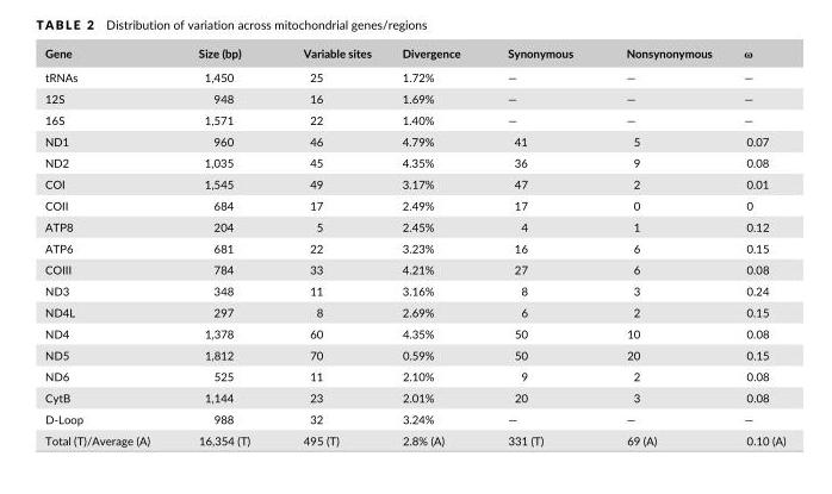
<table><thead><tr><td>Gene</td><td>Size (bp)</td><td>Variable sites</td><td>Divergence</td><td>Synonymous</td><td>Nonsynonymous</td><td>ω</td></tr></thead><tbody><tr><td>tRNAs</td><td>1,450</td><td>25</td><td>1.72%</td><td>—</td><td>—</td><td>—</td></tr><tr><td>12S</td><td>948</td><td>16</td><td>1.69%</td><td>—</td><td>—</td><td>—</td></tr><tr><td>16S</td><td>1,571</td><td>22</td><td>1.40%</td><td>—</td><td>—</td><td>—</td></tr><tr><td>ND1</td><td>960</td><td>46</td><td>4.79%</td><td>41</td><td>5</td><td>0.07</td></tr><tr><td>ND2</td><td>1,035</td><td>45</td><td>4.35%</td><td>36</td><td>9</td><td>0.08</td></tr><tr><td>COI</td><td>1,545</td><td>49</td><td>3.17%</td><td>47</td><td>2</td><td>0.01</td></tr><tr><td>COII</td><td>684</td><td>17</td><td>2.49%</td><td>17</td><td>0</td><td>0</td></tr><tr><td>ATP8</td><td>204</td><td>5</td><td>2.45%</td><td>4</td><td>1</td><td>0.12</td></tr><tr><td>ATP6</td><td>681</td><td>22</td><td>3.23%</td><td>16</td><td>6</td><td>0.15</td></tr><tr><td>COIII</td><td>784</td><td>33</td><td>4.21%</td><td>27</td><td>6</td><td>0.08</td></tr><tr><td>ND3</td><td>348</td><td>11</td><td>3.16%</td><td>8</td><td>3</td><td>0.24</td></tr><tr><td>ND4L</td><td>297</td><td>8</td><td>2.69%</td><td>6</td><td>2</td><td>0.15</td></tr><tr><td>ND4</td><td>1,378</td><td>60</td><td>4.35%</td><td>50</td><td>10</td><td>0.08</td></tr><tr><td>ND5</td><td>1,812</td><td>70</td><td>0.59%</td><td>50</td><td>20</td><td>0.15</td></tr><tr><td>ND6</td><td>525</td><td>11</td><td>2.10%</td><td>9</td><td>2</td><td>0.08</td></tr><tr><td>CytB</td><td>1,144</td><td>23</td><td>2.01%</td><td>20</td><td>3</td><td>0.08</td></tr><tr><td>D- Loop</td><td>988</td><td>32</td><td>3.24%</td><td>—</td><td>—</td><td>—</td></tr><tr><td>Total (T)/Average (A)</td><td>16,354 (T)</td><td>495 (T)</td><td>2.8% (A)</td><td>331 (T)</td><td>69 (A)</td><td>0.10 (A)</td></tr></tbody></table>